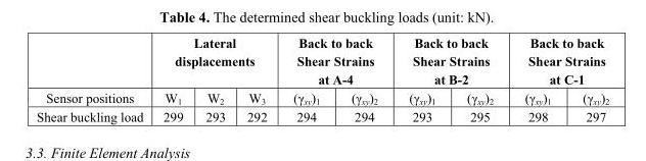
<table><thead><tr><td rowspan="2">Sensor positions</td><td colspan="3">Lateral displacements</td><td colspan="2">Back to back Shear Strains at A-4</td><td colspan="2">Back to back Shear Strains at B-2</td><td colspan="2">Back to back Shear Strains at C-1</td></tr><tr><td>W<sub>1</sub></td><td>W<sub>2</sub></td><td>W<sub>3</sub></td><td>(γ<sub>xy</sub>)<sub>1</sub></td><td>(γ<sub>xy</sub>)<sub>2</sub></td><td>(γ<sub>xy</sub>)<sub>1</sub></td><td>(γ<sub>xy</sub>)<sub>2</sub></td><td>(γ<sub>xy</sub>)<sub>1</sub></td><td>(γ<sub>xy</sub>)<sub>2</sub></td></tr></thead><tbody><tr><td>Shear buckling load</td><td>299</td><td>293</td><td>292</td><td>294</td><td>294</td><td>293</td><td>295</td><td>298</td><td>297</td></tr></tbody></table>